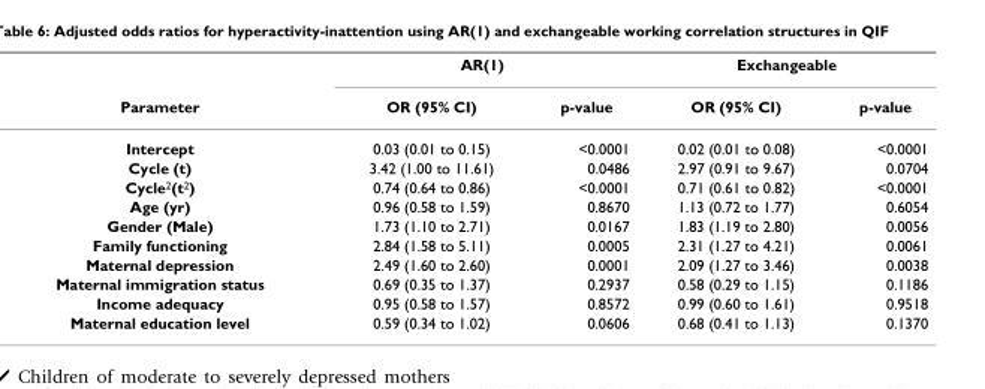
<table><thead><tr><td rowspan="2">Parameter</td><td colspan="2">AR(1)</td><td colspan="2">Exchangeable</td></tr><tr><td>OR (95% CI)</td><td>p-value</td><td>OR (95% CI)</td><td>p-value</td></tr></thead><tbody><tr><td>Intercept</td><td>0.03 (0.01 to 0.15)</td><td>&lt;0.0001</td><td>0.02 (0.01 to 0.08)</td><td>&lt;0.0001</td></tr><tr><td>Cycle (t)</td><td>3.42 (1.00 to 11.61)</td><td>0.0486</td><td>2.97 (0.91 to 9.67)</td><td>0.0704</td></tr><tr><td>Cycle<sup>2</sup>(t<sup>2</sup>)</td><td>0.74 (0.64 to 0.86)</td><td>&lt;0.0001</td><td>0.71 (0.61 to 0.82)</td><td>&lt;0.0001</td></tr><tr><td>Age (yr)</td><td>0.96 (0.58 to 1.59)</td><td>0.8670</td><td>1.13 (0.72 to 1.77)</td><td>0.6054</td></tr><tr><td>Gender (Male)</td><td>1.73 (1.10 to 2.71)</td><td>0.0167</td><td>1.83 (1.19 to 2.80)</td><td>0.0056</td></tr><tr><td>Family functioning</td><td>2.84 (1.58 to 5.11)</td><td>0.0005</td><td>2.31 (1.27 to 4.21)</td><td>0.0061</td></tr><tr><td>Maternal depression</td><td>2.49 (1.60 to 2.60)</td><td>0.0001</td><td>2.09 (1.27 to 3.46)</td><td>0.0038</td></tr><tr><td>Maternal immigration status</td><td>0.69 (0.35 to 1.37)</td><td>0.2937</td><td>0.58 (0.29 to 1.15)</td><td>0.1186</td></tr><tr><td>Income adequacy</td><td>0.95 (0.58 to 1.57)</td><td>0.8572</td><td>0.99 (0.60 to 1.61)</td><td>0.9518</td></tr><tr><td>Maternal education level</td><td>0.59 (0.34 to 1.02)</td><td>0.0606</td><td>0.68 (0.41 to 1.13)</td><td>0.1370</td></tr></tbody></table>